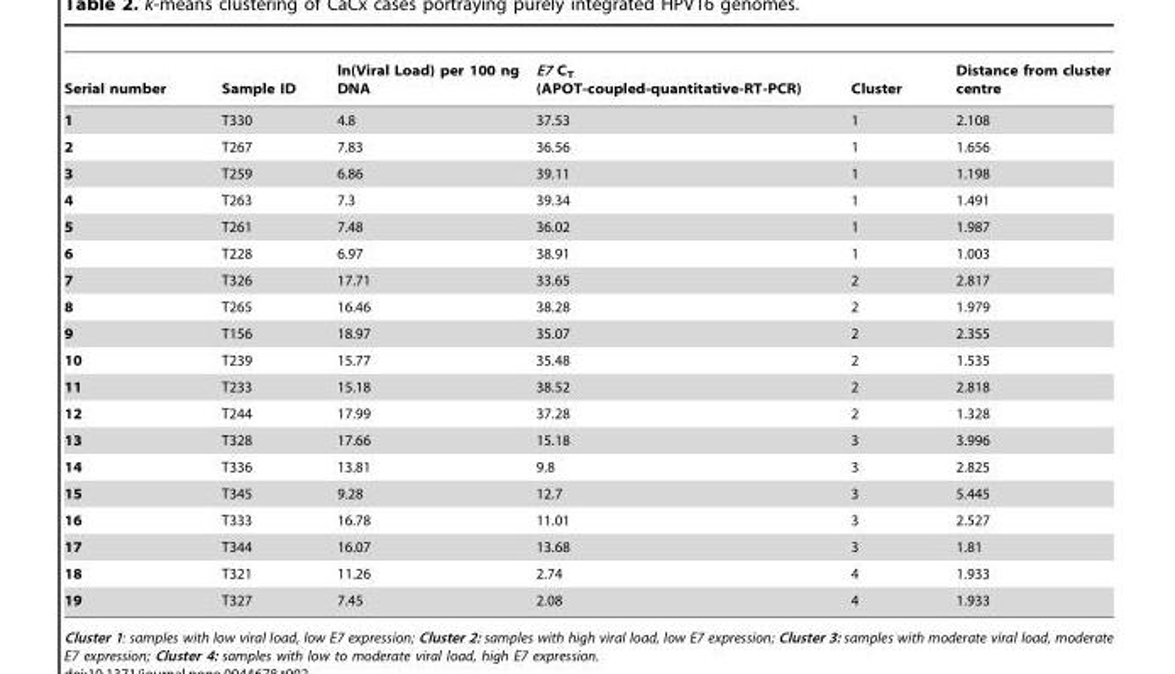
<table><thead><tr><td>Serial number</td><td>Sample ID</td><td>ln(Viral Load) per 100 ng DNA</td><td>E7 C<sub>T</sub> (APOT-coupled-quantitative-RT-PCR)</td><td>Cluster</td><td>Distance from cluster centre</td></tr></thead><tbody><tr><td>1</td><td>T330</td><td>4.8</td><td>37.53</td><td>1</td><td>2.108</td></tr><tr><td>2</td><td>T267</td><td>7.83</td><td>36.56</td><td>1</td><td>1.656</td></tr><tr><td>3</td><td>T259</td><td>6.86</td><td>39.11</td><td>1</td><td>1.198</td></tr><tr><td>4</td><td>T263</td><td>7.3</td><td>39.34</td><td>1</td><td>1.491</td></tr><tr><td>5</td><td>T261</td><td>7.48</td><td>36.02</td><td>1</td><td>1.987</td></tr><tr><td>6</td><td>T228</td><td>6.97</td><td>38.91</td><td>1</td><td>1.003</td></tr><tr><td>7</td><td>T326</td><td>17.71</td><td>33.65</td><td>2</td><td>2.817</td></tr><tr><td>8</td><td>T265</td><td>16.46</td><td>38.28</td><td>2</td><td>1.979</td></tr><tr><td>9</td><td>T156</td><td>18.97</td><td>35.07</td><td>2</td><td>2.355</td></tr><tr><td>10</td><td>T239</td><td>15.77</td><td>35.48</td><td>2</td><td>1.535</td></tr><tr><td>11</td><td>T233</td><td>15.18</td><td>38.52</td><td>2</td><td>2.818</td></tr><tr><td>12</td><td>T244</td><td>17.99</td><td>37.28</td><td>2</td><td>1.328</td></tr><tr><td>13</td><td>T328</td><td>17.66</td><td>15.18</td><td>3</td><td>3.996</td></tr><tr><td>14</td><td>T336</td><td>13.81</td><td>9.8</td><td>3</td><td>2.825</td></tr><tr><td>15</td><td>T345</td><td>9.28</td><td>12.7</td><td>3</td><td>5.445</td></tr><tr><td>16</td><td>T333</td><td>16.78</td><td>11.01</td><td>3</td><td>2.527</td></tr><tr><td>17</td><td>T344</td><td>16.07</td><td>13.68</td><td>3</td><td>1.81</td></tr><tr><td>18</td><td>T321</td><td>11.26</td><td>2.74</td><td>4</td><td>1.933</td></tr><tr><td>19</td><td>T327</td><td>7.45</td><td>2.08</td><td>4</td><td>1.933</td></tr></tbody></table>